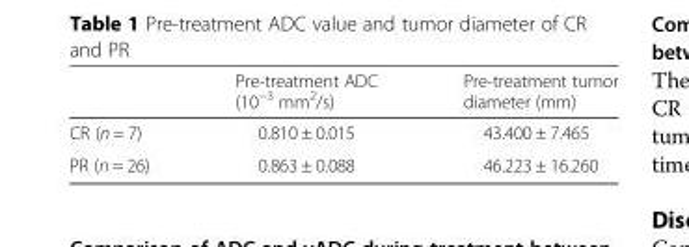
<table><thead><tr><td></td><td>Pre-treatment ADC (10<sup>−3</sup> mm<sup>2</sup>/s)</td><td>Pre-treatment tumor diameter (mm)</td></tr></thead><tbody><tr><td>CR (n = 7)</td><td>0.810 ± 0.015</td><td>43.400 ± 7.465</td></tr><tr><td>PR (n = 26)</td><td>0.863 ± 0.088</td><td>46.223 ± 16.260</td></tr></tbody></table>